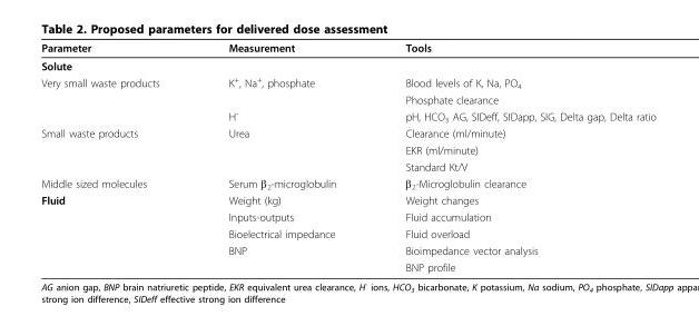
<table><thead><tr><td>Parameter</td><td>Measurement</td><td>Tools</td></tr></thead><tbody><tr><td colspan="3">Solute</td></tr><tr><td rowspan="3">Very small waste products</td><td>K<sup>+</sup>, Na<sup>+</sup>, phosphate</td><td>Blood levels of K, Na, PO<sub>4</sub></td></tr><tr><td></td><td>Phosphate clearance</td></tr><tr><td>H<sup>-</sup></td><td>pH, HCO<sub>3</sub> AG, SIDeff, SIDapp, SIG, Delta gap, Delta ratio</td></tr><tr><td rowspan="3">Small waste products</td><td>Urea</td><td>Clearance (ml/minute)</td></tr><tr><td></td><td>EKR (ml/minute)</td></tr><tr><td></td><td>Standard Kt/V</td></tr><tr><td>Middle sized molecules</td><td>Serum β<sub>2</sub>-microglobulin</td><td>β<sub>2</sub>-Microglobulin clearance</td></tr><tr><td rowspan="5">Fluid</td><td>Weight (kg)</td><td>Weight changes</td></tr><tr><td>Inputs-outputs</td><td>Fluid accumulation</td></tr><tr><td>Bioelectrical impedance</td><td>Fluid overload</td></tr><tr><td>BNP</td><td>Bioimpedance vector analysis</td></tr><tr><td></td><td>BNP profile</td></tr></tbody></table>